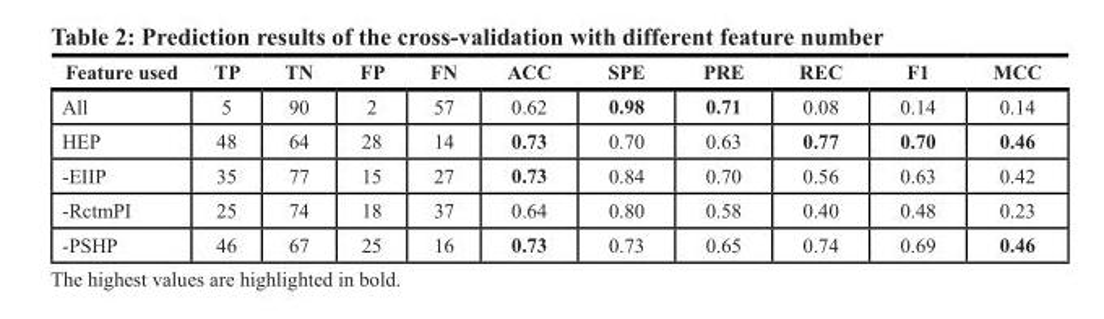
<table><thead><tr><td>Feature used</td><td>TP</td><td>TN</td><td>FP</td><td>FN</td><td>ACC</td><td>SPE</td><td>PRE</td><td>REC</td><td>F1</td><td>MCC</td></tr></thead><tbody><tr><td>All</td><td>5</td><td>90</td><td>2</td><td>57</td><td>0.62</td><td>0.98</td><td>0.71</td><td>0.08</td><td>0.14</td><td>0.14</td></tr><tr><td>HEP</td><td>48</td><td>64</td><td>28</td><td>14</td><td>0.73</td><td>0.70</td><td>0.63</td><td>0.77</td><td>0.70</td><td>0.46</td></tr><tr><td>-EIIP</td><td>35</td><td>77</td><td>15</td><td>27</td><td>0.73</td><td>0.84</td><td>0.70</td><td>0.56</td><td>0.63</td><td>0.42</td></tr><tr><td>-RctmPI</td><td>25</td><td>74</td><td>18</td><td>37</td><td>0.64</td><td>0.80</td><td>0.58</td><td>0.40</td><td>0.48</td><td>0.23</td></tr><tr><td>-PSHP</td><td>46</td><td>67</td><td>25</td><td>16</td><td>0.73</td><td>0.73</td><td>0.65</td><td>0.74</td><td>0.69</td><td>0.46</td></tr></tbody></table>